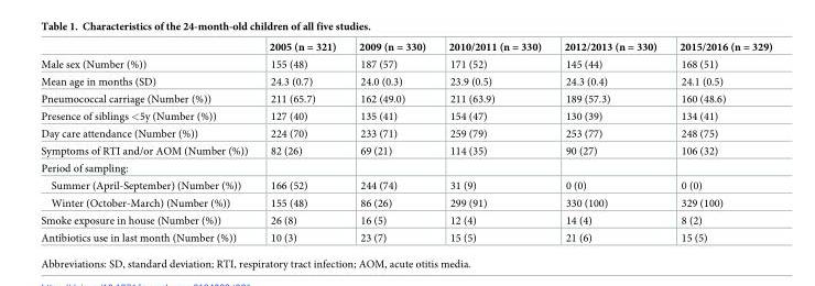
<table><thead><tr><td></td><td>2005 (n = 321)</td><td>2009 (n = 330)</td><td>2010/2011 (n = 330)</td><td>2012/2013 (n = 330)</td><td>2015/2016 (n = 329)</td></tr></thead><tbody><tr><td>Male sex (Number (%))</td><td>155 (48)</td><td>187 (57)</td><td>171 (52)</td><td>145 (44)</td><td>168 (51)</td></tr><tr><td>Mean age in months (SD)</td><td>24.3 (0.7)</td><td>24.0 (0.3)</td><td>23.9 (0.5)</td><td>24.3 (0.4)</td><td>24.1 (0.5)</td></tr><tr><td>Pneumococcal carriage (Number (%))</td><td>211 (65.7)</td><td>162 (49.0)</td><td>211 (63.9)</td><td>189 (57.3)</td><td>160 (48.6)</td></tr><tr><td>Presence of siblings &lt;5y (Number (%))</td><td>127 (40)</td><td>135 (41)</td><td>154 (47)</td><td>130 (39)</td><td>134 (41)</td></tr><tr><td>Day care attendance (Number (%))</td><td>224 (70)</td><td>233 (71)</td><td>259 (79)</td><td>253 (77)</td><td>248 (75)</td></tr><tr><td>Symptoms of RTI and/or AOM (Number (%))</td><td>82 (26)</td><td>69 (21)</td><td>114 (35)</td><td>90 (27)</td><td>106 (32)</td></tr><tr><td colspan="6">Period of sampling:</td></tr><tr><td>Summer (April-September) (Number (%))</td><td>166 (52)</td><td>244 (74)</td><td>31 (9)</td><td>0 (0)</td><td>0 (0)</td></tr><tr><td>Winter (October-March) (Number (%))</td><td>155 (48)</td><td>86 (26)</td><td>299 (91)</td><td>330 (100)</td><td>329 (100)</td></tr><tr><td>Smoke exposure in house (Number (%))</td><td>26 (8)</td><td>16 (5)</td><td>12 (4)</td><td>14 (4)</td><td>8 (2)</td></tr><tr><td>Antibiotics use in last month (Number (%))</td><td>10 (3)</td><td>23 (7)</td><td>15 (5)</td><td>21 (6)</td><td>15 (5)</td></tr></tbody></table>